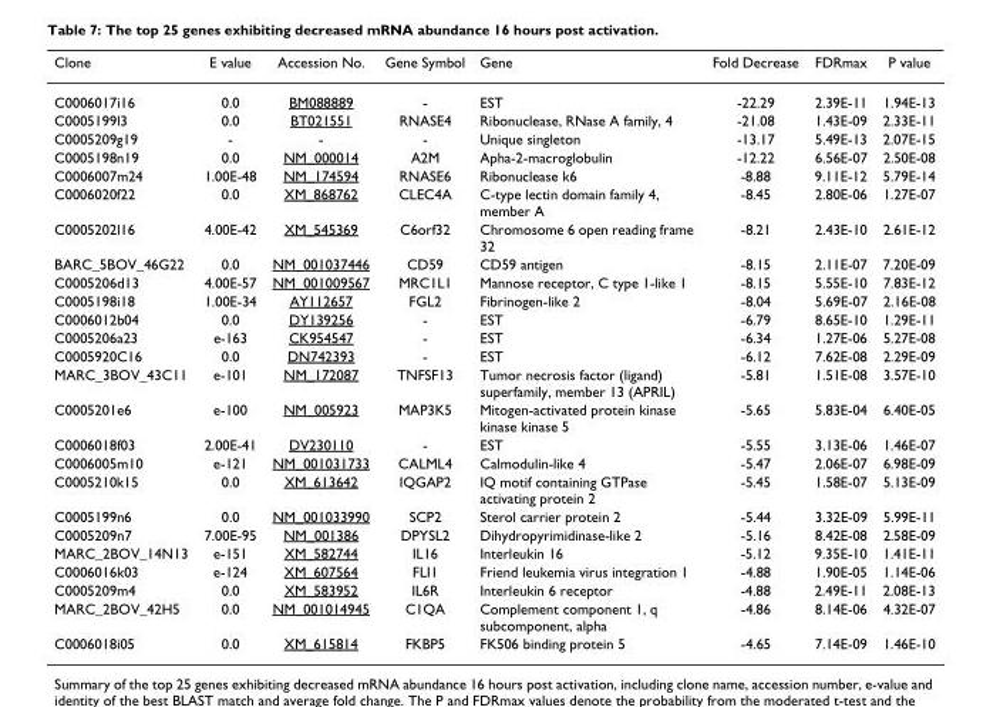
<table><thead><tr><td>Clone</td><td>E value</td><td>Accession No.</td><td>Gene Symbol</td><td>Gene</td><td>Fold Decrease</td><td>FDRmax</td><td>P value</td></tr></thead><tbody><tr><td>C0006017i16</td><td>0.0</td><td>BM088889</td><td>-</td><td>EST</td><td>-22.29</td><td>2.39E-11</td><td>1.94E-13</td></tr><tr><td>C0005199l3</td><td>0.0</td><td>BT021551</td><td>RNASE4</td><td>Ribonuclease, RNase A family, 4</td><td>-21.08</td><td>1.43E-09</td><td>2.33E-11</td></tr><tr><td>C0005209g19</td><td>-</td><td>-</td><td>-</td><td>Unique singleton</td><td>-13.17</td><td>5.49E-13</td><td>2.07E-15</td></tr><tr><td>C0005198n19</td><td>0.0</td><td>NM_000014</td><td>A2M</td><td>Apha-2-macroglobulin</td><td>-12.22</td><td>6.56E-07</td><td>2.50E-08</td></tr><tr><td>C0006007m24</td><td>1.00E-48</td><td>NM_174594</td><td>RNASE6</td><td>Ribonuclease k6</td><td>-8.88</td><td>9.11E-12</td><td>5.79E-14</td></tr><tr><td>C0006020f22</td><td>0.0</td><td>XM_868762</td><td>CLEC4A</td><td>C-type lectin domain family 4, member A</td><td>-8.45</td><td>2.80E-06</td><td>1.27E-07</td></tr><tr><td>C0005202l16</td><td>4.00E-42</td><td>XM_545369</td><td>C6orf32</td><td>Chromosome 6 open reading frame 32</td><td>-8.21</td><td>2.43E-10</td><td>2.61E-12</td></tr><tr><td>BARC_5BOV_46G22</td><td>0.0</td><td>NM_001037446</td><td>CD59</td><td>CD59 antigen</td><td>-8.15</td><td>2.11E-07</td><td>7.20E-09</td></tr><tr><td>C0005206d13</td><td>4.00E-57</td><td>NM_001009567</td><td>MRC1L1</td><td>Mannose receptor, C type 1-like 1</td><td>-8.15</td><td>5.55E-10</td><td>7.83E-12</td></tr><tr><td>C0005198i18</td><td>1.00E-34</td><td>AY112657</td><td>FGL2</td><td>Fibrinogen-like 2</td><td>-8.04</td><td>5.69E-07</td><td>2.16E-08</td></tr><tr><td>C0006012b04</td><td>0.0</td><td>DY139256</td><td>-</td><td>EST</td><td>-6.79</td><td>8.65E-10</td><td>1.29E-11</td></tr><tr><td>C0005206a23</td><td>e-163</td><td>CK954547</td><td>-</td><td>EST</td><td>-6.34</td><td>1.27E-06</td><td>5.27E-08</td></tr><tr><td>C0005920C16</td><td>0.0</td><td>DN742393</td><td>-</td><td>EST</td><td>-6.12</td><td>7.62E-08</td><td>2.29E-09</td></tr><tr><td>MARC_3BOV_43C11</td><td>e-101</td><td>NM_172087</td><td>TNFSF13</td><td>Tumor necrosis factor (ligand) superfamily, member 13 (APRIL)</td><td>-5.81</td><td>1.51E-08</td><td>3.57E-10</td></tr><tr><td>C0005201e6</td><td>e-100</td><td>NM_005923</td><td>MAP3K5</td><td>Mitogen-activated protein kinase kinase kinase 5</td><td>-5.65</td><td>5.83E-04</td><td>6.40E-05</td></tr><tr><td>C0006018f03</td><td>2.00E-41</td><td>DV230110</td><td>-</td><td>EST</td><td>-5.55</td><td>3.13E-06</td><td>1.46E-07</td></tr><tr><td>C0006005m10</td><td>e-121</td><td>NM_001031733</td><td>CALML4</td><td>Calmodulin-like 4</td><td>-5.47</td><td>2.06E-07</td><td>6.98E-09</td></tr><tr><td>C0005210k15</td><td>0.0</td><td>XM_613642</td><td>IQGAP2</td><td>IQ motif containing GTPase activating protein 2</td><td>-5.45</td><td>1.58E-07</td><td>5.13E-09</td></tr><tr><td>C0005199n6</td><td>0.0</td><td>NM_001033990</td><td>SCP2</td><td>Sterol carrier protein 2</td><td>-5.44</td><td>3.32E-09</td><td>5.99E-11</td></tr><tr><td>C0005209n7</td><td>7.00E-95</td><td>NM_001386</td><td>DPYSL2</td><td>Dihydropyrimidinase-like 2</td><td>-5.16</td><td>8.42E-08</td><td>2.58E-09</td></tr><tr><td>MARC_2BOV_14N13</td><td>e-151</td><td>XM_582744</td><td>IL16</td><td>Interleukin 16</td><td>-5.12</td><td>9.35E-10</td><td>1.41E-11</td></tr><tr><td>C0006016k03</td><td>e-124</td><td>XM_607564</td><td>FLI1</td><td>Friend leukemia virus integration 1</td><td>-4.88</td><td>1.90E-05</td><td>1.14E-06</td></tr><tr><td>C0005209m4</td><td>0.0</td><td>XM_583952</td><td>IL6R</td><td>Interleukin 6 receptor</td><td>-4.88</td><td>2.49E-11</td><td>2.08E-13</td></tr><tr><td>MARC_2BOV_42H5</td><td>0.0</td><td>NM_001014945</td><td>C1QA</td><td>Complement component 1, q subcomponent, alpha</td><td>-4.86</td><td>8.14E-06</td><td>4.32E-07</td></tr><tr><td>C0006018i05</td><td>0.0</td><td>XM_615814</td><td>FKBP5</td><td>FK506 binding protein 5</td><td>-4.65</td><td>7.14E-09</td><td>1.46E-10</td></tr></tbody></table>